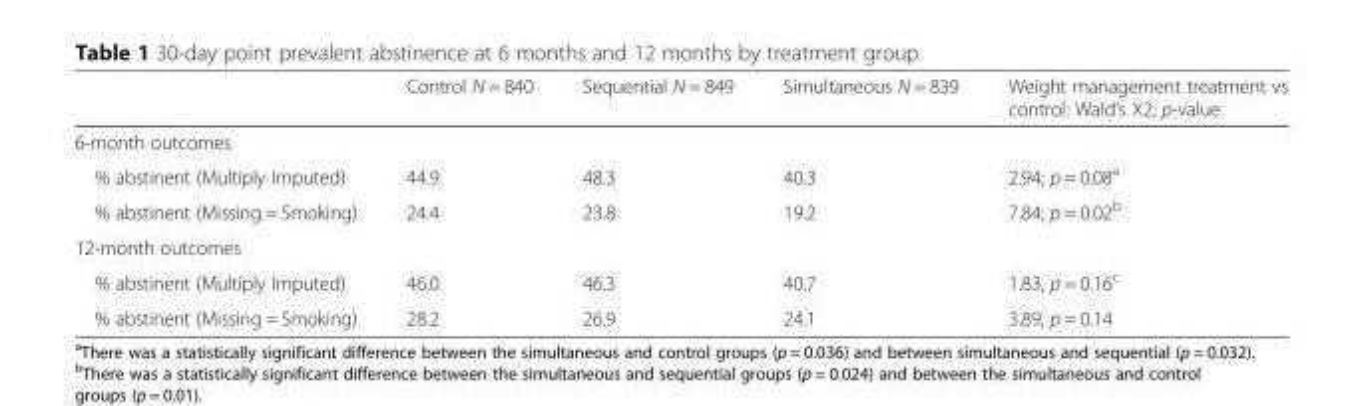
<table><thead><tr><td></td><td>Control N = 840</td><td>Sequential N = 849</td><td>Simultaneous N = 839</td><td>Weight management treatment vs control: Wald’s X2; p-value</td></tr></thead><tbody><tr><td colspan="5">6-month outcomes</td></tr><tr><td>% abstinent (Multiply Imputed)</td><td>44.9</td><td>48.3</td><td>40.3</td><td>2.94; p = 0.08<sup>a</sup></td></tr><tr><td>% abstinent (Missing = Smoking)</td><td>24.4</td><td>23.8</td><td>19.2</td><td>7.84; p = 0.02<sup>b</sup></td></tr><tr><td colspan="5">12-month outcomes</td></tr><tr><td>% abstinent (Multiply Imputed)</td><td>46.0</td><td>46.3</td><td>40.7</td><td>1.83, p = 0.16<sup>c</sup></td></tr><tr><td>% abstinent (Missing = Smoking)</td><td>28.2</td><td>26.9</td><td>24.1</td><td>3.89, p = 0.14</td></tr></tbody></table>